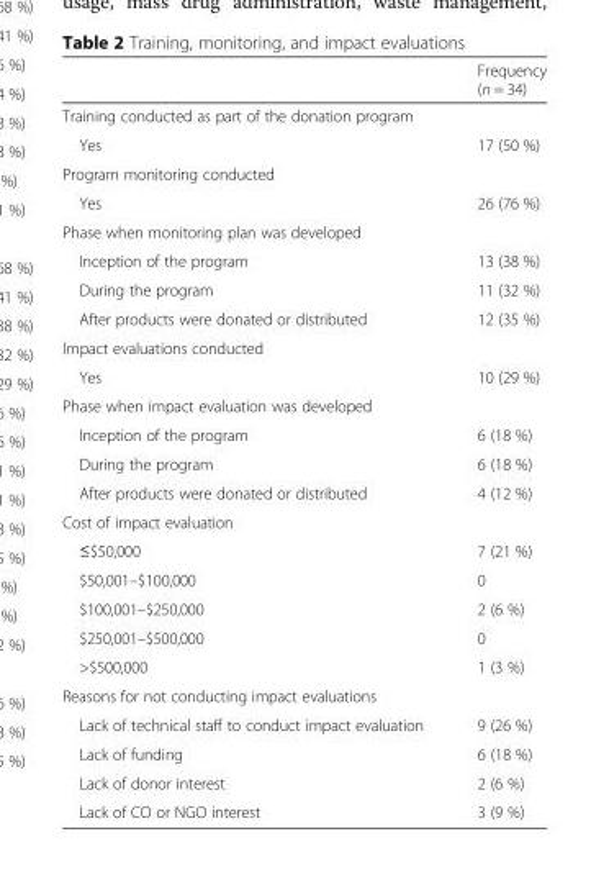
<table><thead><tr><td></td><td>Frequency (n = 34)</td></tr></thead><tbody><tr><td colspan="2">Training conducted as part of the donation program</td></tr><tr><td>Yes</td><td>17 (50 %)</td></tr><tr><td colspan="2">Program monitoring conducted</td></tr><tr><td>Yes</td><td>26 (76 %)</td></tr><tr><td colspan="2">Phase when monitoring plan was developed</td></tr><tr><td>Inception of the program</td><td>13 (38 %)</td></tr><tr><td>During the program</td><td>11 (32 %)</td></tr><tr><td>After products were donated or distributed</td><td>12 (35 %)</td></tr><tr><td colspan="2">Impact evaluations conducted</td></tr><tr><td>Yes</td><td>10 (29 %)</td></tr><tr><td colspan="2">Phase when impact evaluation was developed</td></tr><tr><td>Inception of the program</td><td>6 (18 %)</td></tr><tr><td>During the program</td><td>6 (18 %)</td></tr><tr><td>After products were donated or distributed</td><td>4 (12 %)</td></tr><tr><td colspan="2">Cost of impact evaluation</td></tr><tr><td>≤$50,000</td><td>7 (21 %)</td></tr><tr><td>$50,001–$100,000</td><td>0</td></tr><tr><td>$100,001–$250,000</td><td>2 (6 %)</td></tr><tr><td>$250,001–$500,000</td><td>0</td></tr><tr><td>&gt;$500,000</td><td>1 (3 %)</td></tr><tr><td colspan="2">Reasons for not conducting impact evaluations</td></tr><tr><td>Lack of technical staff to conduct impact evaluation</td><td>9 (26 %)</td></tr><tr><td>Lack of funding</td><td>6 (18 %)</td></tr><tr><td>Lack of donor interest</td><td>2 (6 %)</td></tr><tr><td>Lack of CO or NGO interest</td><td>3 (9 %)</td></tr></tbody></table>